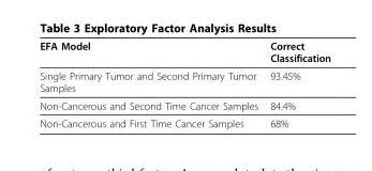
<table><thead><tr><td>EFA Model</td><td>Correct Classification</td></tr></thead><tbody><tr><td>Single Primary Tumor and Second Primary Tumor Samples</td><td>93.45%</td></tr><tr><td>Non-Cancerous and Second Time Cancer Samples</td><td>84.4%</td></tr><tr><td>Non-Cancerous and First Time Cancer Samples</td><td>68%</td></tr></tbody></table>